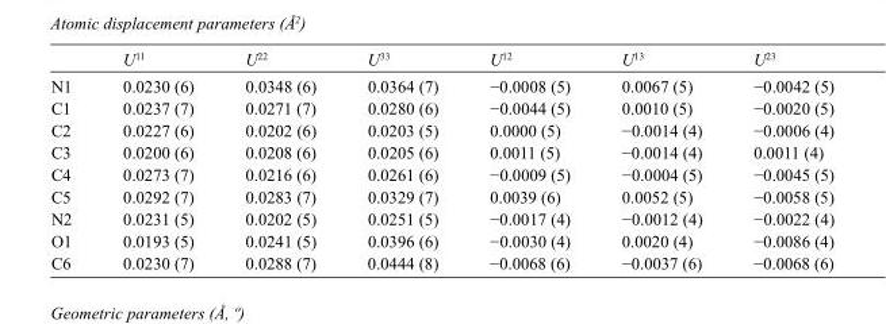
<table><thead><tr><td></td><td>U<sup>11</sup></td><td>U<sup>22</sup></td><td>U<sup>33</sup></td><td>U<sup>12</sup></td><td>U<sup>13</sup></td><td>U<sup>23</sup></td></tr></thead><tbody><tr><td>N1</td><td>0.0230 (6)</td><td>0.0348 (6)</td><td>0.0364 (7)</td><td>−0.0008 (5)</td><td>0.0067 (5)</td><td>−0.0042 (5)</td></tr><tr><td>C1</td><td>0.0237 (7)</td><td>0.0271 (7)</td><td>0.0280 (6)</td><td>−0.0044 (5)</td><td>0.0010 (5)</td><td>−0.0020 (5)</td></tr><tr><td>C2</td><td>0.0227 (6)</td><td>0.0202 (6)</td><td>0.0203 (5)</td><td>0.0000 (5)</td><td>−0.0014 (4)</td><td>−0.0006 (4)</td></tr><tr><td>C3</td><td>0.0200 (6)</td><td>0.0208 (6)</td><td>0.0205 (6)</td><td>0.0011 (5)</td><td>−0.0014 (4)</td><td>0.0011 (4)</td></tr><tr><td>C4</td><td>0.0273 (7)</td><td>0.0216 (6)</td><td>0.0261 (6)</td><td>−0.0009 (5)</td><td>−0.0004 (5)</td><td>−0.0045 (5)</td></tr><tr><td>C5</td><td>0.0292 (7)</td><td>0.0283 (7)</td><td>0.0329 (7)</td><td>0.0039 (6)</td><td>0.0052 (5)</td><td>−0.0058 (5)</td></tr><tr><td>N2</td><td>0.0231 (5)</td><td>0.0202 (5)</td><td>0.0251 (5)</td><td>−0.0017 (4)</td><td>−0.0012 (4)</td><td>−0.0022 (4)</td></tr><tr><td>O1</td><td>0.0193 (5)</td><td>0.0241 (5)</td><td>0.0396 (6)</td><td>−0.0030 (4)</td><td>0.0020 (4)</td><td>−0.0086 (4)</td></tr><tr><td>C6</td><td>0.0230 (7)</td><td>0.0288 (7)</td><td>0.0444 (8)</td><td>−0.0068 (6)</td><td>−0.0037 (6)</td><td>−0.0068 (6)</td></tr></tbody></table>